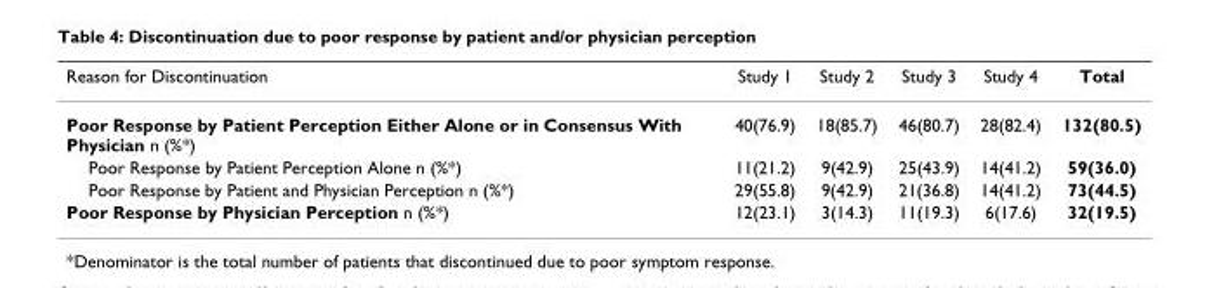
<table><thead><tr><td>Reason for Discontinuation</td><td>Study 1</td><td>Study 2</td><td>Study 3</td><td>Study 4</td><td>Total</td></tr></thead><tbody><tr><td>Poor Response by Patient Perception Either Alone or in Consensus With Physician n (%*)</td><td>40(76.9)</td><td>18(85.7)</td><td>46(80.7)</td><td>28(82.4)</td><td>132(80.5)</td></tr><tr><td>Poor Response by Patient Perception Alone n (%*)</td><td>11(21.2)</td><td>9(42.9)</td><td>25(43.9)</td><td>14(41.2)</td><td>59(36.0)</td></tr><tr><td>Poor Response by Patient and Physician Perception n (%*)</td><td>29(55.8)</td><td>9(42.9)</td><td>21(36.8)</td><td>14(41.2)</td><td>73(44.5)</td></tr><tr><td>Poor Response by Physician Perception n (%*)</td><td>12(23.1)</td><td>3(14.3)</td><td>11(19.3)</td><td>6(17.6)</td><td>32(19.5)</td></tr></tbody></table>